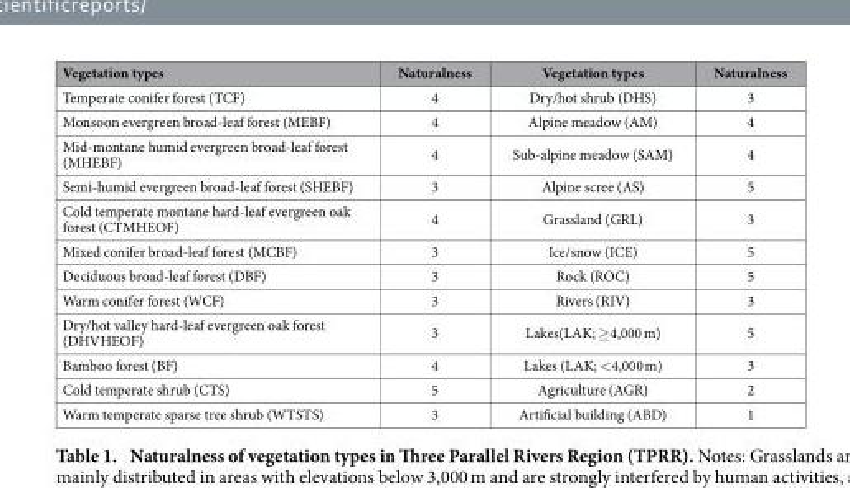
<table><thead><tr><td>Vegetation types</td><td>Naturalness</td><td>Vegetation types</td><td>Naturalness</td></tr></thead><tbody><tr><td>Temperate conifer forest (TCF)</td><td>4</td><td>Dry/hot shrub (DHS)</td><td>3</td></tr><tr><td>Monsoon evergreen broad-leaf forest (MEBF)</td><td>4</td><td>Alpine meadow (AM)</td><td>4</td></tr><tr><td>Mid-montane humid evergreen broad-leaf forest (MHEBF)</td><td>4</td><td>Sub-alpine meadow (SAM)</td><td>4</td></tr><tr><td>Semi-humid evergreen broad-leaf forest (SHEBF)</td><td>3</td><td>Alpine scree (AS)</td><td>5</td></tr><tr><td>Cold temperate montane hard-leaf evergreen oak forest (CTMHEOF)</td><td>4</td><td>Grassland (GRL)</td><td>3</td></tr><tr><td>Mixed conifer broad-leaf forest (MCBF)</td><td>3</td><td>Ice/snow (ICE)</td><td>5</td></tr><tr><td>Deciduous broad-leaf forest (DBF)</td><td>3</td><td>Rock (ROC)</td><td>5</td></tr><tr><td>Warm conifer forest (WCF)</td><td>3</td><td>Rivers (RIV)</td><td>3</td></tr><tr><td>Dry/hot valley hard-leaf evergreen oak forest (DHVHEOF)</td><td>3</td><td>Lakes(LAK; ≥ 4,000 m)</td><td>5</td></tr><tr><td>Bamboo forest (BF)</td><td>4</td><td>Lakes (LAK; &lt; 4,000 m)</td><td>3</td></tr><tr><td>Cold temperate shrub (CTS)</td><td>5</td><td>Agriculture (AGR)</td><td>2</td></tr><tr><td>Warm temperate sparse tree shrub (WTSTS)</td><td>3</td><td>Artificial building (ABD)</td><td>1</td></tr></tbody></table>